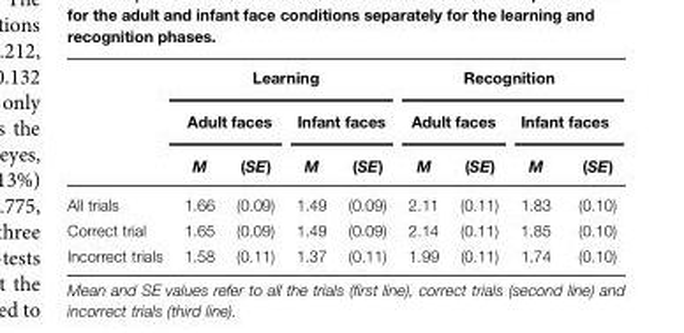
<table><thead><tr><td rowspan="3"></td><td colspan="4">Learning</td><td colspan="4">Recognition</td></tr><tr><td colspan="2">Adult faces</td><td colspan="2">Infant faces</td><td colspan="2">Adult faces</td><td colspan="2">Infant faces</td></tr><tr><td>M</td><td>(SE)</td><td>M</td><td>(SE)</td><td>M</td><td>(SE)</td><td>M</td><td>(SE)</td></tr></thead><tbody><tr><td>All trials</td><td>1.66</td><td>(0.09)</td><td>1.49</td><td>(0.09)</td><td>2.11</td><td>(0.11)</td><td>1.83</td><td>(0.10)</td></tr><tr><td>Correct trial</td><td>1.65</td><td>(0.09)</td><td>1.49</td><td>(0.09)</td><td>2.14</td><td>(0.11)</td><td>1.85</td><td>(0.10)</td></tr><tr><td>Incorrect trials</td><td>1.58</td><td>(0.11)</td><td>1.37</td><td>(0.11)</td><td>1.99</td><td>(0.11)</td><td>1.74</td><td>(0.10)</td></tr></tbody></table>